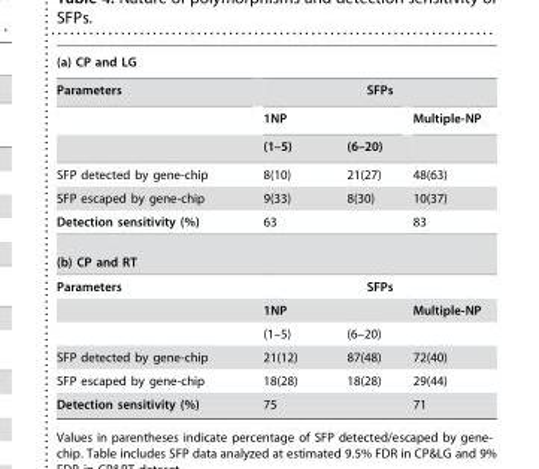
<table><thead><tr><td colspan="4">(a) CP and LG</td></tr><tr><td rowspan="3">Parameters</td><td colspan="3">SFPs</td></tr><tr><td colspan="2">1NP</td><td rowspan="2">Multiple-NP</td></tr><tr><td>(1–5)</td><td>(6–20)</td></tr></thead><tbody><tr><td>SFP detected by gene-chip</td><td>8(10)</td><td>21(27)</td><td>48(63)</td></tr><tr><td>SFP escaped by gene-chip</td><td>9(33)</td><td>8(30)</td><td>10(37)</td></tr><tr><td>Detection sensitivity (%)</td><td>63</td><td></td><td>83</td></tr><tr><td colspan="4">(b) CP and RT</td></tr><tr><td rowspan="3">Parameters</td><td colspan="3">SFPs</td></tr><tr><td colspan="2">1NP</td><td>Multiple-NP</td></tr><tr><td>(1–5)</td><td>(6–20)</td><td></td></tr><tr><td>SFP detected by gene-chip</td><td>21(12)</td><td>87(48)</td><td>72(40)</td></tr><tr><td>SFP escaped by gene-chip</td><td>18(28)</td><td>18(28)</td><td>29(44)</td></tr><tr><td>Detection sensitivity (%)</td><td>75</td><td></td><td>71</td></tr></tbody></table>